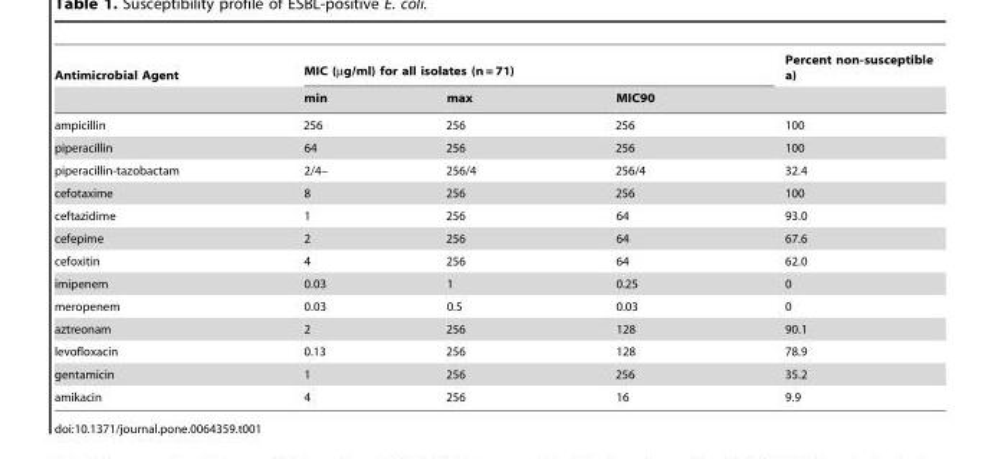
<table><thead><tr><td rowspan="2">Antimicrobial Agent</td><td colspan="3">MIC (µg/ml) for all isolates (n = 71)</td><td rowspan="2">Percent non-susceptible a)</td></tr><tr><td>min</td><td>max</td><td>MIC90</td></tr></thead><tbody><tr><td>ampicillin</td><td>256</td><td>256</td><td>256</td><td>100</td></tr><tr><td>piperacillin</td><td>64</td><td>256</td><td>256</td><td>100</td></tr><tr><td>piperacillin-tazobactam</td><td>2/4–</td><td>256/4</td><td>256/4</td><td>32.4</td></tr><tr><td>cefotaxime</td><td>8</td><td>256</td><td>256</td><td>100</td></tr><tr><td>ceftazidime</td><td>1</td><td>256</td><td>64</td><td>93.0</td></tr><tr><td>cefepime</td><td>2</td><td>256</td><td>64</td><td>67.6</td></tr><tr><td>cefoxitin</td><td>4</td><td>256</td><td>64</td><td>62.0</td></tr><tr><td>imipenem</td><td>0.03</td><td>1</td><td>0.25</td><td>0</td></tr><tr><td>meropenem</td><td>0.03</td><td>0.5</td><td>0.03</td><td>0</td></tr><tr><td>aztreonam</td><td>2</td><td>256</td><td>128</td><td>90.1</td></tr><tr><td>levofloxacin</td><td>0.13</td><td>256</td><td>128</td><td>78.9</td></tr><tr><td>gentamicin</td><td>1</td><td>256</td><td>256</td><td>35.2</td></tr><tr><td>amikacin</td><td>4</td><td>256</td><td>16</td><td>9.9</td></tr></tbody></table>